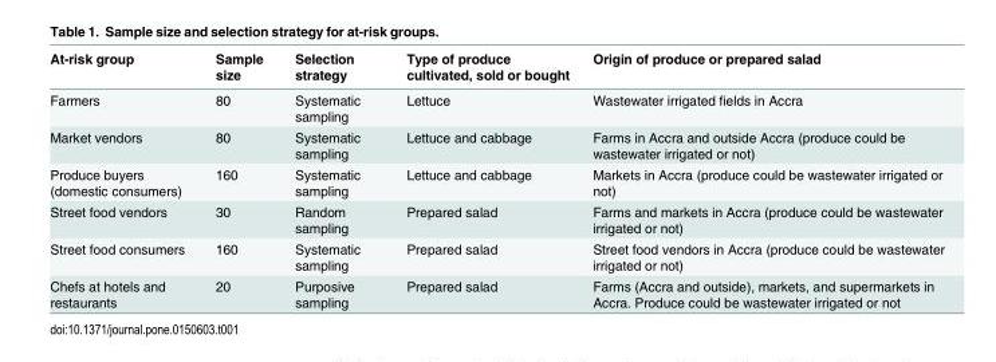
<table><thead><tr><td>At-risk group</td><td>Sample size</td><td>Selection strategy</td><td>Type of produce cultivated, sold or bought</td><td>Origin of produce or prepared salad</td></tr></thead><tbody><tr><td>Farmers</td><td>80</td><td>Systematic sampling</td><td>Lettuce</td><td>Wastewater irrigated fields in Accra</td></tr><tr><td>Market vendors</td><td>80</td><td>Systematic sampling</td><td>Lettuce and cabbage</td><td>Farms in Accra and outside Accra (produce could be wastewater irrigated or not)</td></tr><tr><td>Produce buyers (domestic consumers)</td><td>160</td><td>Systematic sampling</td><td>Lettuce and cabbage</td><td>Markets in Accra (produce could be wastewater irrigated or not)</td></tr><tr><td>Street food vendors</td><td>30</td><td>Random sampling</td><td>Prepared salad</td><td>Farms and markets in Accra (produce could be wastewater irrigated or not)</td></tr><tr><td>Street food consumers</td><td>160</td><td>Systematic sampling</td><td>Prepared salad</td><td>Street food vendors in Accra (produce could be wastewater irrigated or not)</td></tr><tr><td>Chefs at hotels and restaurants</td><td>20</td><td>Purposive sampling</td><td>Prepared salad</td><td>Farms (Accra and outside), markets, and supermarkets in Accra. Produce could be wastewater irrigated or not</td></tr></tbody></table>